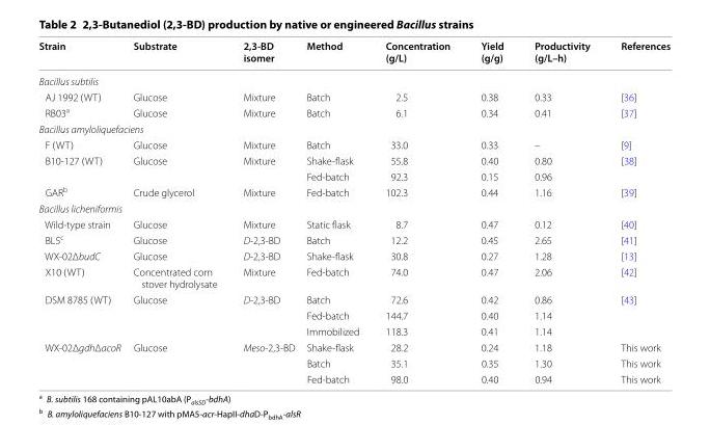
<table><thead><tr><td>Strain</td><td>Substrate</td><td>2,3‑BD isomer</td><td>Method</td><td>Concentration (g/L)</td><td>Yield (g/g)</td><td>Productivity (g/L–h)</td><td>References</td></tr></thead><tbody><tr><td colspan="8">Bacillus subtilis</td></tr><tr><td>AJ 1992 (WT)</td><td>Glucose</td><td>Mixture</td><td>Batch</td><td>2.5</td><td>0.38</td><td>0.33</td><td>[36]</td></tr><tr><td>RB03<sup>a</sup></td><td>Glucose</td><td>Mixture</td><td>Batch</td><td>6.1</td><td>0.34</td><td>0.41</td><td>[37]</td></tr><tr><td colspan="8">Bacillus amyloliquefaciens</td></tr><tr><td>F (WT)</td><td>Glucose</td><td>Mixture</td><td>Batch</td><td>33.0</td><td>0.33</td><td>–</td><td>[9]</td></tr><tr><td rowspan="2">B10-127 (WT)</td><td>Glucose</td><td>Mixture</td><td>Shake-flask</td><td>55.8</td><td>0.40</td><td>0.80</td><td rowspan="2">[38]</td></tr><tr><td></td><td></td><td>Fed-batch</td><td>92.3</td><td>0.15</td><td>0.96</td></tr><tr><td>GAR<sup>b</sup></td><td>Crude glycerol</td><td>Mixture</td><td>Fed-batch</td><td>102.3</td><td>0.44</td><td>1.16</td><td>[39]</td></tr><tr><td colspan="8">Bacillus licheniformis</td></tr><tr><td>Wild-type strain</td><td>Glucose</td><td>Mixture</td><td>Static flask</td><td>8.7</td><td>0.47</td><td>0.12</td><td>[40]</td></tr><tr><td>BL5<sup>c</sup></td><td>Glucose</td><td>D-2,3-BD</td><td>Batch</td><td>12.2</td><td>0.45</td><td>2.65</td><td>[41]</td></tr><tr><td>WX-02ΔbudC</td><td>Glucose</td><td>D-2,3-BD</td><td>Shake-flask</td><td>30.8</td><td>0.27</td><td>1.28</td><td>[13]</td></tr><tr><td>X10 (WT)</td><td>Concentrated corn stover hydrolysate</td><td>Mixture</td><td>Fed-batch</td><td>74.0</td><td>0.47</td><td>2.06</td><td>[42]</td></tr><tr><td rowspan="3">DSM 8785 (WT)</td><td>Glucose</td><td>D-2,3-BD</td><td>Batch</td><td>72.6</td><td>0.42</td><td>0.86</td><td rowspan="3">[43]</td></tr><tr><td></td><td></td><td>Fed-batch</td><td>144.7</td><td>0.40</td><td>1.14</td></tr><tr><td></td><td></td><td>Immobilized</td><td>118.3</td><td>0.41</td><td>1.14</td></tr><tr><td rowspan="3">WX-02ΔgdhΔacoR</td><td>Glucose</td><td>Meso-2,3-BD</td><td>Shake-flask</td><td>28.2</td><td>0.24</td><td>1.18</td><td>This work</td></tr><tr><td></td><td></td><td>Batch</td><td>35.1</td><td>0.35</td><td>1.30</td><td>This work</td></tr><tr><td></td><td></td><td>Fed-batch</td><td>98.0</td><td>0.40</td><td>0.94</td><td>This work</td></tr></tbody></table>